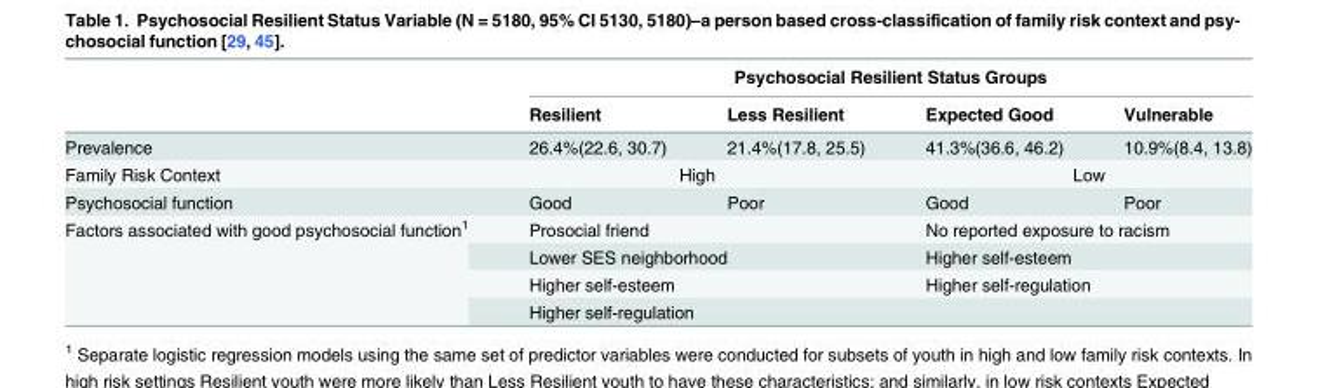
<table><thead><tr><td rowspan="2"></td><td colspan="4">Psychosocial Resilient Status Groups</td></tr><tr><td>Resilient</td><td>Less Resilient</td><td>Expected Good</td><td>Vulnerable</td></tr></thead><tbody><tr><td>Prevalence</td><td>26.4%(22.6, 30.7)</td><td>21.4%(17.8, 25.5)</td><td>41.3%(36.6, 46.2)</td><td>10.9%(8.4, 13.8)</td></tr><tr><td>Family Risk Context</td><td colspan="2">High</td><td colspan="2">Low</td></tr><tr><td>Psychosocial function</td><td>Good</td><td>Poor</td><td>Good</td><td>Poor</td></tr><tr><td rowspan="4">Factors associated with good psychosocial function<sup>1</sup></td><td colspan="2">Prosocial friend</td><td colspan="2">No reported exposure to racism</td></tr><tr><td colspan="2">Lower SES neighborhood</td><td colspan="2">Higher self-esteem</td></tr><tr><td colspan="2">Higher self-esteem</td><td colspan="2">Higher self-regulation</td></tr><tr><td colspan="2">Higher self-regulation</td><td colspan="2"></td></tr></tbody></table>